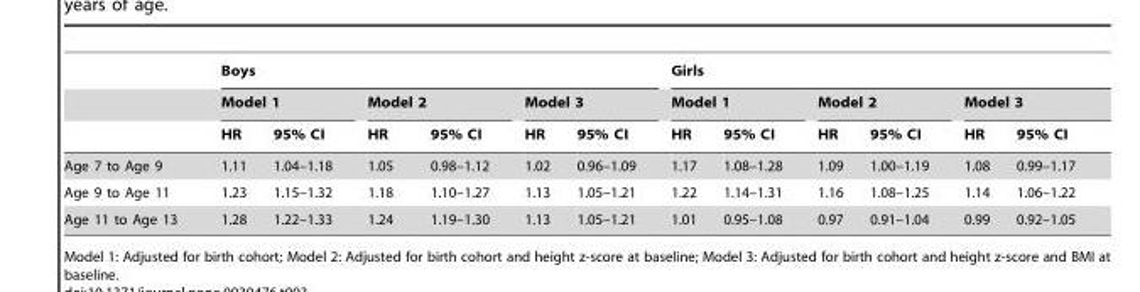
<table><thead><tr><td rowspan="3"></td><td colspan="6">Boys</td><td colspan="6">Girls</td></tr><tr><td colspan="2">Model 1</td><td colspan="2">Model 2</td><td colspan="2">Model 3</td><td colspan="2">Model 1</td><td colspan="2">Model 2</td><td colspan="2">Model 3</td></tr><tr><td>HR</td><td>95% CI</td><td>HR</td><td>95% CI</td><td>HR</td><td>95% CI</td><td>HR</td><td>95% CI</td><td>HR</td><td>95% CI</td><td>HR</td><td>95% CI</td></tr></thead><tbody><tr><td>Age 7 to Age 9</td><td>1.11</td><td>1.04–1.18</td><td>1.05</td><td>0.98–1.12</td><td>1.02</td><td>0.96–1.09</td><td>1.17</td><td>1.08–1.28</td><td>1.09</td><td>1.00–1.19</td><td>1.08</td><td>0.99–1.17</td></tr><tr><td>Age 9 to Age 11</td><td>1.23</td><td>1.15–1.32</td><td>1.18</td><td>1.10–1.27</td><td>1.13</td><td>1.05–1.21</td><td>1.22</td><td>1.14–1.31</td><td>1.16</td><td>1.08–1.25</td><td>1.14</td><td>1.06–1.22</td></tr><tr><td>Age 11 to Age 13</td><td>1.28</td><td>1.22–1.33</td><td>1.24</td><td>1.19–1.30</td><td>1.13</td><td>1.05–1.21</td><td>1.01</td><td>0.95–1.08</td><td>0.97</td><td>0.91–1.04</td><td>0.99</td><td>0.92–1.05</td></tr></tbody></table>